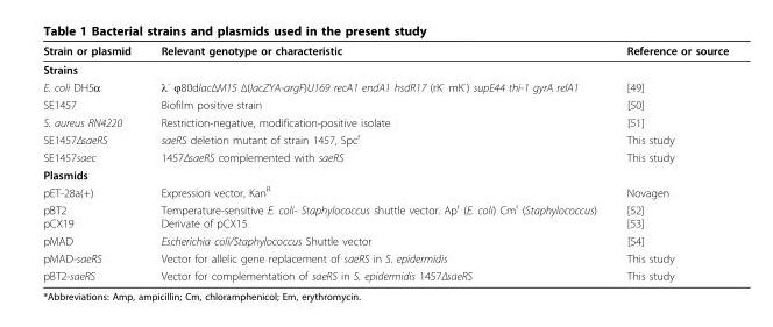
<table><thead><tr><td>Strain or plasmid</td><td>Relevant genotype or characteristic</td><td>Reference or source</td></tr></thead><tbody><tr><td colspan="3">Strains</td></tr><tr><td>E. coli DH5α</td><td>λ<sup>-</sup> ϕ80dlacΔM15 Δ(lacZYA-argF)U169 recA1 endA1 hsdR17 (rK<sup>-</sup> mK<sup>-</sup>) supE44 thi-1 gyrA relA1</td><td>[49]</td></tr><tr><td>SE1457</td><td>Biofilm positive strain</td><td>[50]</td></tr><tr><td>S. aureus RN4220</td><td>Restriction-negative, modification-positive isolate</td><td>[51]</td></tr><tr><td>SE1457ΔsaeRS</td><td>saeRS deletion mutant of strain 1457, Spc<sup>r</sup></td><td>This study</td></tr><tr><td>SE1457saec</td><td>1457ΔsaeRS complemented with saeRS</td><td>This study</td></tr><tr><td colspan="3">Plasmids</td></tr><tr><td>pET-28a(+)</td><td>Expression vector, Kan<sup>R</sup></td><td>Novagen</td></tr><tr><td>pBT2 pCX19</td><td>Temperature-sensitive E. coli- Staphylococcus shuttle vector. Ap<sup>r</sup> (E. coli) Cm<sup>r</sup> (Staphylococcus) Derivate of pCX15</td><td>[52] [53]</td></tr><tr><td>pMAD</td><td>Escherichia coli/Staphylococcus Shuttle vector</td><td>[54]</td></tr><tr><td>pMAD-saeRS</td><td>Vector for allelic gene replacement of saeRS in S. epidermidis</td><td>This study</td></tr><tr><td>pBT2-saeRS</td><td>Vector for complementation of saeRS in S. epidermidis 1457ΔsaeRS</td><td>This study</td></tr></tbody></table>